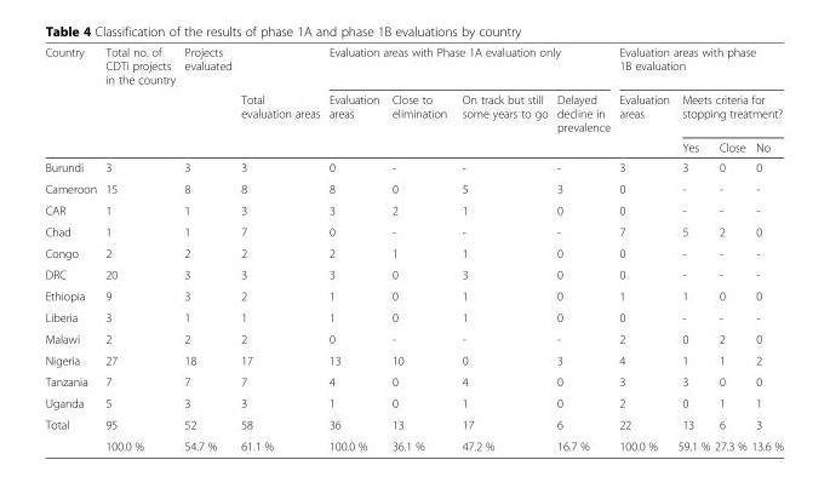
<table><thead><tr><td rowspan="3">Country</td><td rowspan="3">Total no. of CDTi projects in the country</td><td rowspan="3">Projects evaluated</td><td rowspan="3">Total evaluation areas</td><td colspan="4">Evaluation areas with Phase 1A evaluation only</td><td colspan="4">Evaluation areas with phase 1B evaluation</td></tr><tr><td rowspan="2">Evaluation areas</td><td rowspan="2">Close to elimination</td><td rowspan="2">On track but still some years to go</td><td rowspan="2">Delayed decline in prevalence</td><td rowspan="2">Evaluation areas</td><td colspan="3">Meets criteria for stopping treatment?</td></tr><tr><td>Yes</td><td>Close</td><td>No</td></tr></thead><tbody><tr><td>Burundi</td><td>3</td><td>3</td><td>3</td><td>0</td><td>-</td><td>-</td><td>-</td><td>3</td><td>3</td><td>0</td><td>0</td></tr><tr><td>Cameroon</td><td>15</td><td>8</td><td>8</td><td>8</td><td>0</td><td>5</td><td>3</td><td>0</td><td>-</td><td>-</td><td>-</td></tr><tr><td>CAR</td><td>1</td><td>1</td><td>3</td><td>3</td><td>2</td><td>1</td><td>0</td><td>0</td><td>-</td><td>-</td><td>-</td></tr><tr><td>Chad</td><td>1</td><td>1</td><td>7</td><td>0</td><td>-</td><td>-</td><td>-</td><td>7</td><td>5</td><td>2</td><td>0</td></tr><tr><td>Congo</td><td>2</td><td>2</td><td>2</td><td>2</td><td>1</td><td>1</td><td>0</td><td>0</td><td>-</td><td>-</td><td>-</td></tr><tr><td>DRC</td><td>20</td><td>3</td><td>3</td><td>3</td><td>0</td><td>3</td><td>0</td><td>0</td><td>-</td><td>-</td><td>-</td></tr><tr><td>Ethiopia</td><td>9</td><td>3</td><td>2</td><td>1</td><td>0</td><td>1</td><td>0</td><td>1</td><td>1</td><td>0</td><td>0</td></tr><tr><td>Liberia</td><td>3</td><td>1</td><td>1</td><td>1</td><td>0</td><td>1</td><td>0</td><td>0</td><td>-</td><td>-</td><td>-</td></tr><tr><td>Malawi</td><td>2</td><td>2</td><td>2</td><td>0</td><td>-</td><td>-</td><td>-</td><td>2</td><td>0</td><td>2</td><td>0</td></tr><tr><td>Nigeria</td><td>27</td><td>18</td><td>17</td><td>13</td><td>10</td><td>0</td><td>3</td><td>4</td><td>1</td><td>1</td><td>2</td></tr><tr><td>Tanzania</td><td>7</td><td>7</td><td>7</td><td>4</td><td>0</td><td>4</td><td>0</td><td>3</td><td>3</td><td>0</td><td>0</td></tr><tr><td>Uganda</td><td>5</td><td>3</td><td>3</td><td>1</td><td>0</td><td>1</td><td>0</td><td>2</td><td>0</td><td>1</td><td>1</td></tr><tr><td rowspan="2">Total</td><td>95</td><td>52</td><td>58</td><td>36</td><td>13</td><td>17</td><td>6</td><td>22</td><td>13</td><td>6</td><td>3</td></tr><tr><td>100.0 %</td><td>54.7 %</td><td>61.1 %</td><td>100.0 %</td><td>36.1 %</td><td>47.2 %</td><td>16.7 %</td><td>100.0 %</td><td>59.1 %</td><td>27.3 %</td><td>13.6 %</td></tr></tbody></table>